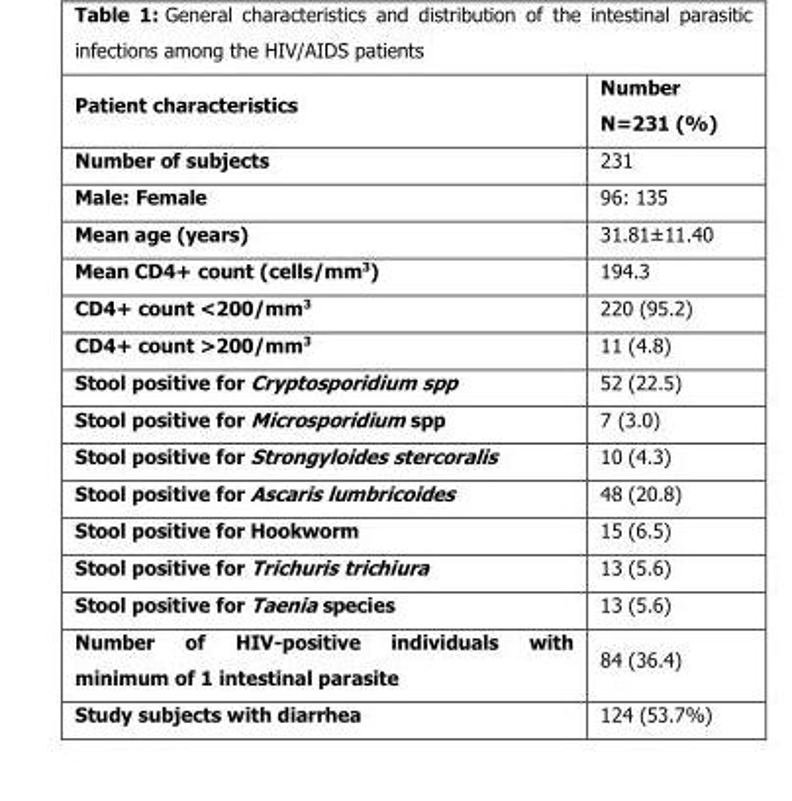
<table><thead><tr><td>Patient characteristics</td><td>Number N=231 (%)</td></tr></thead><tbody><tr><td>Number of subjects</td><td>231</td></tr><tr><td>Male: Female</td><td>96: 135</td></tr><tr><td>Mean age (years)</td><td>31.81±11.40</td></tr><tr><td>Mean CD4+ count (cells/mm<sup>3</sup>)</td><td>194.3</td></tr><tr><td>CD4+ count &lt;200/mm<sup>3</sup></td><td>220 (95.2)</td></tr><tr><td>CD4+ count &gt;200/mm<sup>3</sup></td><td>11 (4.8)</td></tr><tr><td>Stool positive for Cryptosporidium spp</td><td>52 (22.5)</td></tr><tr><td>Stool positive for Microsporidium spp</td><td>7 (3.0)</td></tr><tr><td>Stool positive for Strongyloides stercoralis</td><td>10 (4.3)</td></tr><tr><td>Stool positive for Ascaris lumbricoides</td><td>48 (20.8)</td></tr><tr><td>Stool positive for Hookworm</td><td>15 (6.5)</td></tr><tr><td>Stool positive for Trichuris trichiura</td><td>13 (5.6)</td></tr><tr><td>Stool positive for Taenia species</td><td>13 (5.6)</td></tr><tr><td>Number of HIV-positive individuals with minimum of 1 intestinal parasite</td><td>84 (36.4)</td></tr><tr><td>Study subjects with diarrhea</td><td>124 (53.7%)</td></tr></tbody></table>